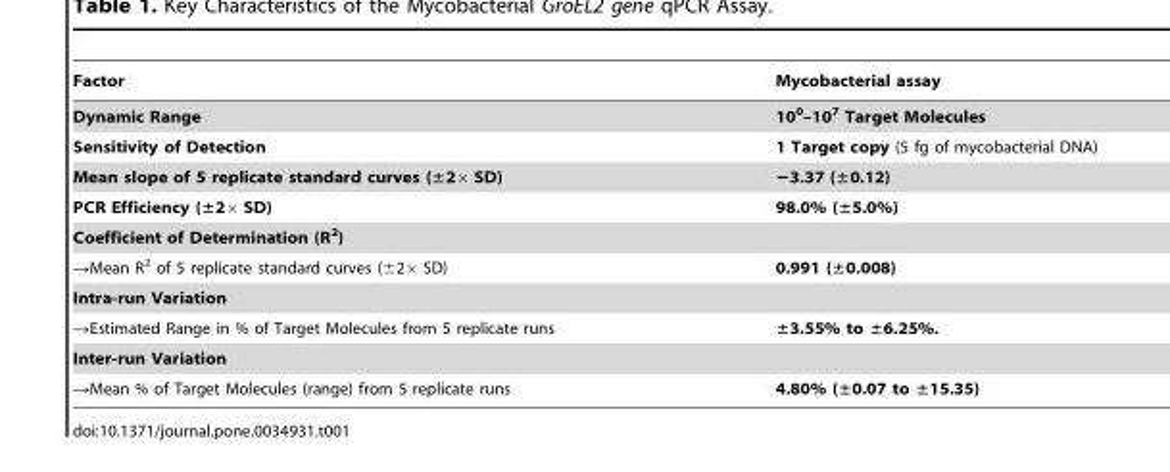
<table><thead><tr><td>Factor</td><td>Mycobacterial assay</td></tr></thead><tbody><tr><td>Dynamic Range</td><td>10<sup>0</sup>–10<sup>7</sup> Target Molecules</td></tr><tr><td>Sensitivity of Detection</td><td>1 Target copy (5 fg of mycobacterial DNA)</td></tr><tr><td>Mean slope of 5 replicate standard curves (±2× SD)</td><td>−3.37 (±0.12)</td></tr><tr><td>PCR Efficiency (±2× SD)</td><td>98.0% (±5.0%)</td></tr><tr><td colspan="2">Coefficient of Determination (R<sup>2</sup>)</td></tr><tr><td>→Mean R<sup>2</sup> of 5 replicate standard curves (±2× SD)</td><td>0.991 (±0.008)</td></tr><tr><td colspan="2">Intra-run Variation</td></tr><tr><td>→Estimated Range in % of Target Molecules from 5 replicate runs</td><td>±3.55% to ±6.25%.</td></tr><tr><td colspan="2">Inter-run Variation</td></tr><tr><td>→Mean % of Target Molecules (range) from 5 replicate runs</td><td>4.80% (±0.07 to ±15.35)</td></tr></tbody></table>